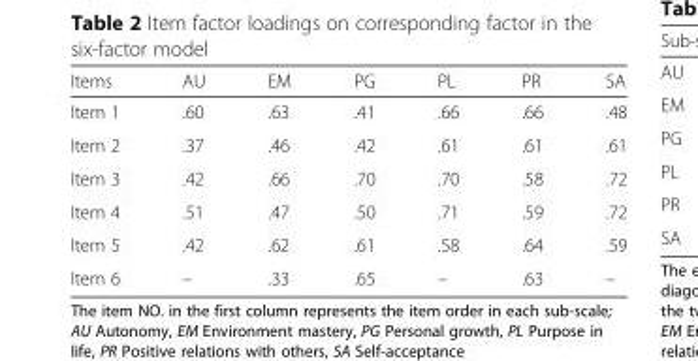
<table><thead><tr><td>Items</td><td>AU</td><td>EM</td><td>PG</td><td>PL</td><td>PR</td><td>SA</td></tr></thead><tbody><tr><td>Item 1</td><td>.60</td><td>.63</td><td>.41</td><td>.66</td><td>.66</td><td>.48</td></tr><tr><td>Item 2</td><td>.37</td><td>.46</td><td>.42</td><td>.61</td><td>.61</td><td>.61</td></tr><tr><td>Item 3</td><td>.42</td><td>.66</td><td>.70</td><td>.70</td><td>.58</td><td>.72</td></tr><tr><td>Item 4</td><td>.51</td><td>.47</td><td>.50</td><td>.71</td><td>.59</td><td>.72</td></tr><tr><td>Item 5</td><td>.42</td><td>.62</td><td>.61</td><td>.58</td><td>.64</td><td>.59</td></tr><tr><td>Item 6</td><td>–</td><td>.33</td><td>.65</td><td>–</td><td>.63</td><td>–</td></tr></tbody></table>